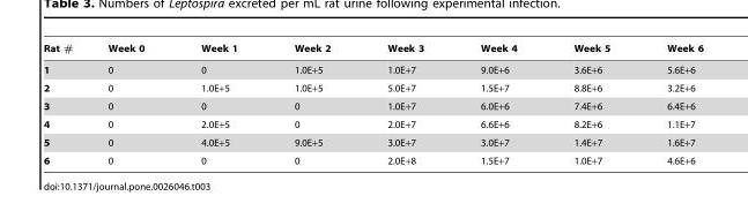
<table><thead><tr><td>Rat #</td><td>Week 0</td><td>Week 1</td><td>Week 2</td><td>Week 3</td><td>Week 4</td><td>Week 5</td><td>Week 6</td></tr></thead><tbody><tr><td>1</td><td>0</td><td>0</td><td>1.0E+5</td><td>1.0E+7</td><td>9.0E+6</td><td>3.6E+6</td><td>5.6E+6</td></tr><tr><td>2</td><td>0</td><td>1.0E+5</td><td>1.0E+5</td><td>5.0E+7</td><td>1.5E+7</td><td>8.8E+6</td><td>3.2E+6</td></tr><tr><td>3</td><td>0</td><td>0</td><td>0</td><td>1.0E+7</td><td>6.0E+6</td><td>7.4E+6</td><td>6.4E+6</td></tr><tr><td>4</td><td>0</td><td>2.0E+5</td><td>0</td><td>2.0E+7</td><td>6.6E+6</td><td>8.2E+6</td><td>1.1E+7</td></tr><tr><td>5</td><td>0</td><td>4.0E+5</td><td>9.0E+5</td><td>3.0E+7</td><td>3.0E+7</td><td>1.4E+7</td><td>1.6E+7</td></tr><tr><td>6</td><td>0</td><td>0</td><td>0</td><td>2.0E+8</td><td>1.5E+7</td><td>1.0E+7</td><td>4.6E+6</td></tr></tbody></table>